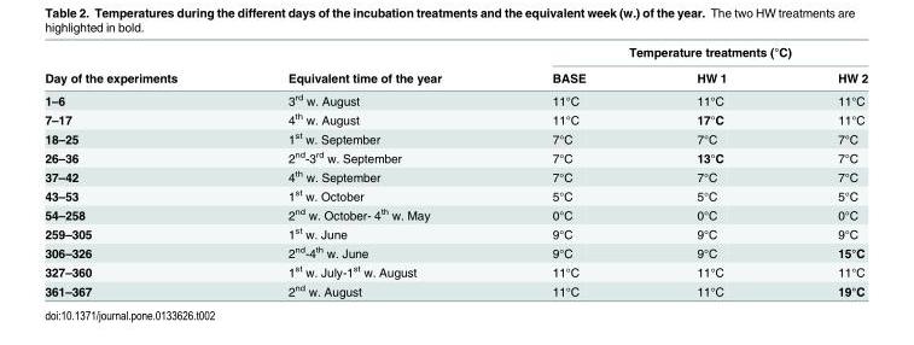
<table><thead><tr><td rowspan="2">Day of the experiments</td><td rowspan="2">Equivalent time of the year</td><td colspan="3">Temperature treatments (°C)</td></tr><tr><td>BASE</td><td>HW 1</td><td>HW 2</td></tr></thead><tbody><tr><td>1–6</td><td>3<sup>rd</sup> w. August</td><td>11°C</td><td>11°C</td><td>11°C</td></tr><tr><td>7–17</td><td>4<sup>th</sup> w. August</td><td>11°C</td><td>17°C</td><td>11°C</td></tr><tr><td>18–25</td><td>1<sup>st</sup> w. September</td><td>7°C</td><td>7°C</td><td>7°C</td></tr><tr><td>26–36</td><td>2<sup>nd</sup>-3<sup>rd</sup> w. September</td><td>7°C</td><td>13°C</td><td>7°C</td></tr><tr><td>37–42</td><td>4<sup>th</sup> w. September</td><td>7°C</td><td>7°C</td><td>7°C</td></tr><tr><td>43–53</td><td>1<sup>st</sup> w. October</td><td>5°C</td><td>5°C</td><td>5°C</td></tr><tr><td>54–258</td><td>2<sup>nd</sup> w. October- 4<sup>th</sup> w. May</td><td>0°C</td><td>0°C</td><td>0°C</td></tr><tr><td>259–305</td><td>1<sup>st</sup> w. June</td><td>9°C</td><td>9°C</td><td>9°C</td></tr><tr><td>306–326</td><td>2<sup>nd</sup>-4<sup>th</sup> w. June</td><td>9°C</td><td>9°C</td><td>15°C</td></tr><tr><td>327–360</td><td>1<sup>st</sup> w. July-1<sup>st</sup> w. August</td><td>11°C</td><td>11°C</td><td>11°C</td></tr><tr><td>361–367</td><td>2<sup>nd</sup> w. August</td><td>11°C</td><td>11°C</td><td>19°C</td></tr></tbody></table>